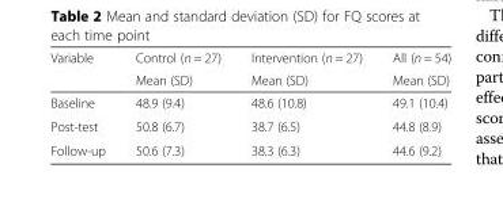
<table><thead><tr><td rowspan="2">Variable</td><td rowspan="2">Control (n = 27) Mean (SD)</td><td rowspan="2">Intervention (n = 27) Mean (SD)</td><td rowspan="2">All (n = 54) Mean (SD)</td></tr><tr></tr></thead><tbody><tr><td>Baseline</td><td>48.9 (9.4)</td><td>48.6 (10.8)</td><td>49.1 (10.4)</td></tr><tr><td>Post-test</td><td>50.8 (6.7)</td><td>38.7 (6.5)</td><td>44.8 (8.9)</td></tr><tr><td>Follow-up</td><td>50.6 (7.3)</td><td>38.3 (6.3)</td><td>44.6 (9.2)</td></tr></tbody></table>